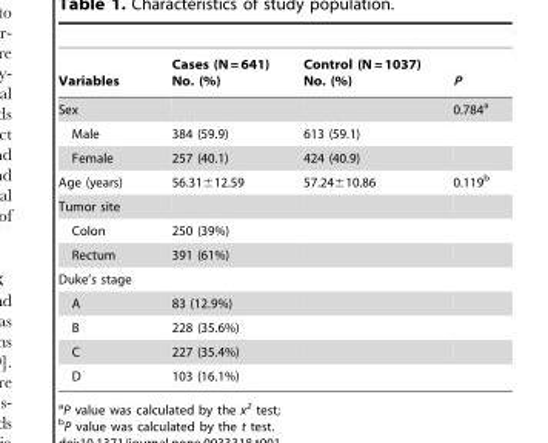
<table><thead><tr><td>Variables</td><td>Cases (N = 641) No. (%)</td><td>Control (N = 1037) No. (%)</td><td>P</td></tr></thead><tbody><tr><td>Sex</td><td></td><td></td><td>0.784<sup>a</sup></td></tr><tr><td>Male</td><td>384 (59.9)</td><td>613 (59.1)</td><td></td></tr><tr><td>Female</td><td>257 (40.1)</td><td>424 (40.9)</td><td></td></tr><tr><td>Age (years)</td><td>56.31±12.59</td><td>57.24±10.86</td><td>0.119<sup>b</sup></td></tr><tr><td colspan="4">Tumor site</td></tr><tr><td>Colon</td><td>250 (39%)</td><td></td><td></td></tr><tr><td>Rectum</td><td>391 (61%)</td><td></td><td></td></tr><tr><td colspan="4">Duke’s stage</td></tr><tr><td>A</td><td>83 (12.9%)</td><td></td><td></td></tr><tr><td>B</td><td>228 (35.6%)</td><td></td><td></td></tr><tr><td>C</td><td>227 (35.4%)</td><td></td><td></td></tr><tr><td>D</td><td>103 (16.1%)</td><td></td><td></td></tr></tbody></table>